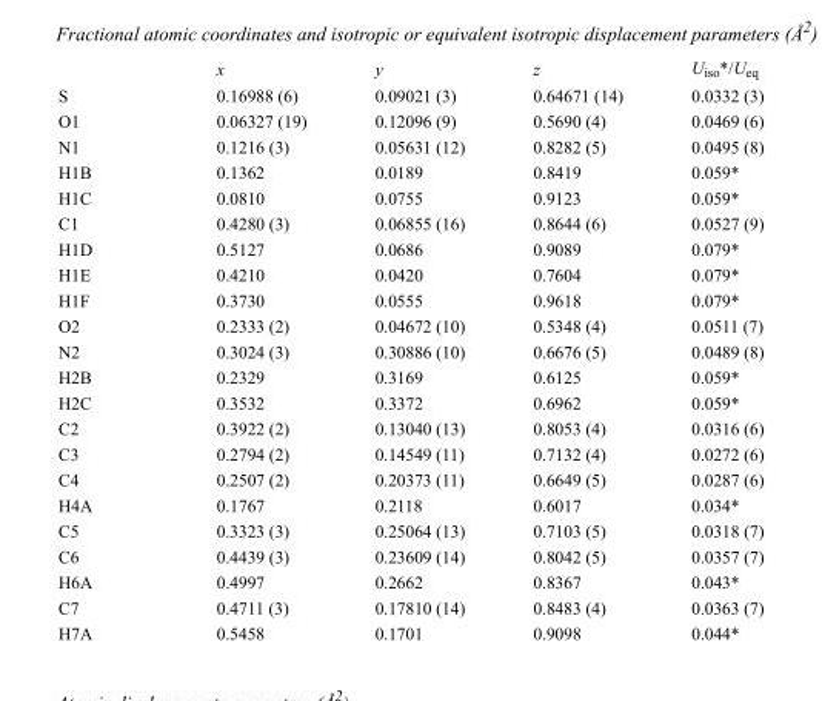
<table><thead><tr><td></td><td>x</td><td>y</td><td>z</td><td>U<sub>iso</sub>*/U<sub>eq</sub></td></tr></thead><tbody><tr><td>S</td><td>0.16988 (6)</td><td>0.09021 (3)</td><td>0.64671 (14)</td><td>0.0332 (3)</td></tr><tr><td>O1</td><td>0.06327 (19)</td><td>0.12096 (9)</td><td>0.5690 (4)</td><td>0.0469 (6)</td></tr><tr><td>N1</td><td>0.1216 (3)</td><td>0.05631 (12)</td><td>0.8282 (5)</td><td>0.0495 (8)</td></tr><tr><td>H1B</td><td>0.1362</td><td>0.0189</td><td>0.8419</td><td>0.059*</td></tr><tr><td>H1C</td><td>0.0810</td><td>0.0755</td><td>0.9123</td><td>0.059*</td></tr><tr><td>C1</td><td>0.4280 (3)</td><td>0.06855 (16)</td><td>0.8644 (6)</td><td>0.0527 (9)</td></tr><tr><td>H1D</td><td>0.5127</td><td>0.0686</td><td>0.9089</td><td>0.079*</td></tr><tr><td>H1E</td><td>0.4210</td><td>0.0420</td><td>0.7604</td><td>0.079*</td></tr><tr><td>H1F</td><td>0.3730</td><td>0.0555</td><td>0.9618</td><td>0.079*</td></tr><tr><td>O2</td><td>0.2333 (2)</td><td>0.04672 (10)</td><td>0.5348 (4)</td><td>0.0511 (7)</td></tr><tr><td>N2</td><td>0.3024 (3)</td><td>0.30886 (10)</td><td>0.6676 (5)</td><td>0.0489 (8)</td></tr><tr><td>H2B</td><td>0.2329</td><td>0.3169</td><td>0.6125</td><td>0.059*</td></tr><tr><td>H2C</td><td>0.3532</td><td>0.3372</td><td>0.6962</td><td>0.059*</td></tr><tr><td>C2</td><td>0.3922 (2)</td><td>0.13040 (13)</td><td>0.8053 (4)</td><td>0.0316 (6)</td></tr><tr><td>C3</td><td>0.2794 (2)</td><td>0.14549 (11)</td><td>0.7132 (4)</td><td>0.0272 (6)</td></tr><tr><td>C4</td><td>0.2507 (2)</td><td>0.20373 (11)</td><td>0.6649 (5)</td><td>0.0287 (6)</td></tr><tr><td>H4A</td><td>0.1767</td><td>0.2118</td><td>0.6017</td><td>0.034*</td></tr><tr><td>C5</td><td>0.3323 (3)</td><td>0.25064 (13)</td><td>0.7103 (5)</td><td>0.0318 (7)</td></tr><tr><td>C6</td><td>0.4439 (3)</td><td>0.23609 (14)</td><td>0.8042 (5)</td><td>0.0357 (7)</td></tr><tr><td>H6A</td><td>0.4997</td><td>0.2662</td><td>0.8367</td><td>0.043*</td></tr><tr><td>C7</td><td>0.4711 (3)</td><td>0.17810 (14)</td><td>0.8483 (4)</td><td>0.0363 (7)</td></tr><tr><td>H7A</td><td>0.5458</td><td>0.1701</td><td>0.9098</td><td>0.044*</td></tr></tbody></table>